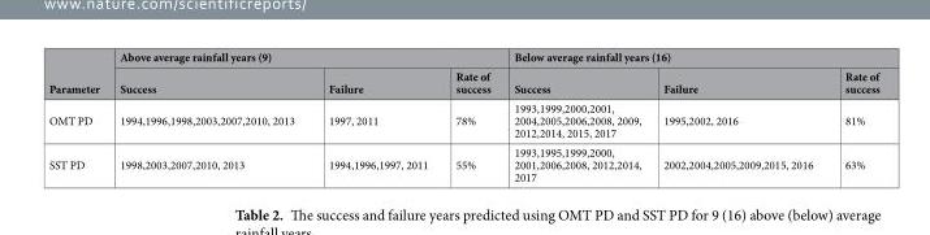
<table><thead><tr><td rowspan="2">Parameter</td><td colspan="3">Above average rainfall years (9)</td><td colspan="3">Below average rainfall years (16)</td></tr><tr><td>Success</td><td>Failure</td><td>Rate of success</td><td>Success</td><td>Failure</td><td>Rate of success</td></tr></thead><tbody><tr><td>OMT PD</td><td>1994,1996,1998,2003,2007,2010, 2013</td><td>1997, 2011</td><td>78%</td><td>1993,1999,2000,2001, 2004,2005,2006,2008, 2009, 2012,2014, 2015, 2017</td><td>1995,2002, 2016</td><td>81%</td></tr><tr><td>SST PD</td><td>1998,2003,2007,2010, 2013</td><td>1994,1996,1997, 2011</td><td>55%</td><td>1993,1995,1999,2000, 2001,2006,2008, 2012,2014, 2017</td><td>2002,2004,2005,2009,2015, 2016</td><td>63%</td></tr></tbody></table>